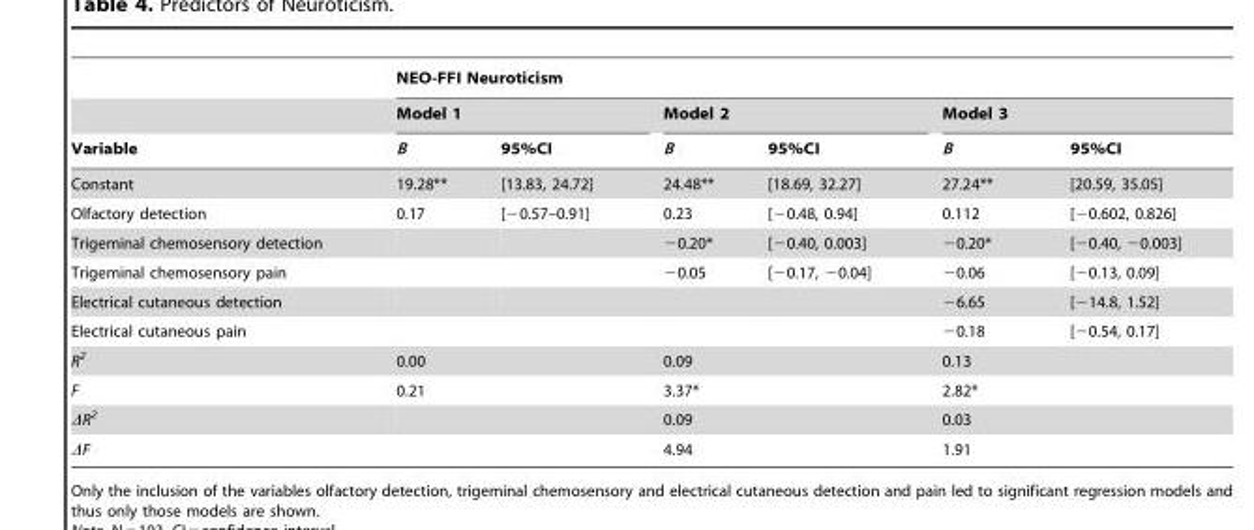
<table><thead><tr><td rowspan="3">Variable</td><td colspan="6">NEO-FFI Neuroticism</td></tr><tr><td colspan="2">Model 1</td><td colspan="2">Model 2</td><td colspan="2">Model 3</td></tr><tr><td>B</td><td>95%CI</td><td>B</td><td>95%CI</td><td>B</td><td>95%CI</td></tr></thead><tbody><tr><td>Constant</td><td>19.28**</td><td>[13.83, 24.72]</td><td>24.48**</td><td>[18.69, 32.27]</td><td>27.24**</td><td>[20.59, 35.05]</td></tr><tr><td>Olfactory detection</td><td>0.17</td><td>[−0.57–0.91]</td><td>0.23</td><td>[−0.48, 0.94]</td><td>0.112</td><td>[−0.602, 0.826]</td></tr><tr><td>Trigeminal chemosensory detection</td><td></td><td></td><td>−0.20*</td><td>[−0.40, 0.003]</td><td>−0.20*</td><td>[−0.40, −0.003]</td></tr><tr><td>Trigeminal chemosensory pain</td><td></td><td></td><td>−0.05</td><td>[−0.17, −0.04]</td><td>−0.06</td><td>[−0.13, 0.09]</td></tr><tr><td>Electrical cutaneous detection</td><td></td><td></td><td></td><td></td><td>−6.65</td><td>[−14.8, 1.52]</td></tr><tr><td>Electrical cutaneous pain</td><td></td><td></td><td></td><td></td><td>−0.18</td><td>[−0.54, 0.17]</td></tr><tr><td>R<sup>2</sup></td><td colspan="2">0.00</td><td colspan="2">0.09</td><td colspan="2">0.13</td></tr><tr><td>F</td><td colspan="2">0.21</td><td colspan="2">3.37*</td><td colspan="2">2.82*</td></tr><tr><td>ΔR<sup>2</sup></td><td colspan="2"></td><td colspan="2">0.09</td><td colspan="2">0.03</td></tr><tr><td>ΔF</td><td colspan="2"></td><td colspan="2">4.94</td><td colspan="2">1.91</td></tr></tbody></table>